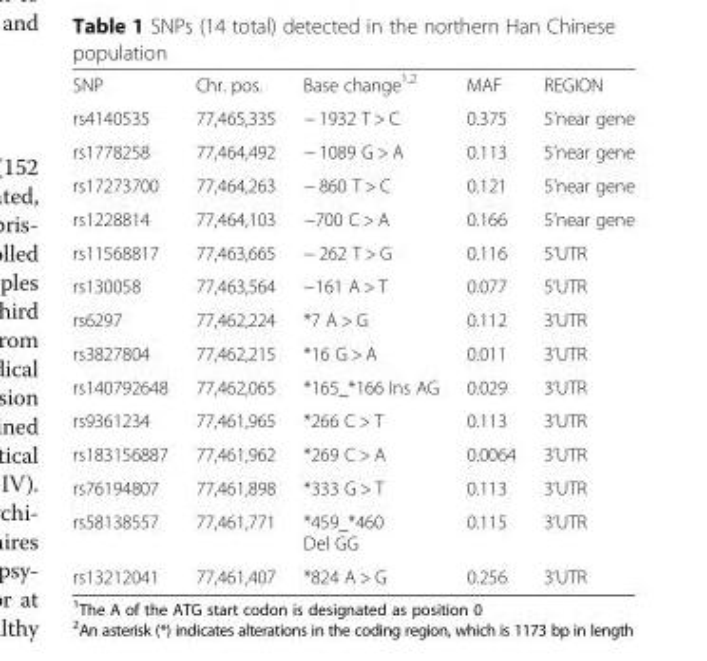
<table><tbody><tr><td>SNP</td><td>Chr. pos.</td><td>Base change<sup>1,2</sup></td><td>MAF</td><td>REGION</td></tr><tr><td>rs4140535</td><td>77,465,335</td><td>− 1932 T &gt; C</td><td>0.375</td><td>5’near gene</td></tr><tr><td>rs1778258</td><td>77,464,492</td><td>− 1089 G &gt; A</td><td>0.113</td><td>5’near gene</td></tr><tr><td>rs17273700</td><td>77,464,263</td><td>− 860 T &gt; C</td><td>0.121</td><td>5’near gene</td></tr><tr><td>rs1228814</td><td>77,464,103</td><td>−700 C &gt; A</td><td>0.166</td><td>5’near gene</td></tr><tr><td>rs11568817</td><td>77,463,665</td><td>− 262 T &gt; G</td><td>0.116</td><td>5’UTR</td></tr><tr><td>rs130058</td><td>77,463,564</td><td>−161 A &gt; T</td><td>0.077</td><td>5’UTR</td></tr><tr><td>rs6297</td><td>77,462,224</td><td>*7 A &gt; G</td><td>0.112</td><td>3’UTR</td></tr><tr><td>rs3827804</td><td>77,462,215</td><td>*16 G &gt; A</td><td>0.011</td><td>3’UTR</td></tr><tr><td>rs140792648</td><td>77,462,065</td><td>*165_*166 Ins AG</td><td>0.029</td><td>3’UTR</td></tr><tr><td>rs9361234</td><td>77,461,965</td><td>*266 C &gt; T</td><td>0.113</td><td>3’UTR</td></tr><tr><td>rs183156887</td><td>77,461,962</td><td>*269 C &gt; A</td><td>0.0064</td><td>3’UTR</td></tr><tr><td>rs76194807</td><td>77,461,898</td><td>*333 G &gt; T</td><td>0.113</td><td>3’UTR</td></tr><tr><td>rs58138557</td><td>77,461,771</td><td>*459_*460 Del GG</td><td>0.115</td><td>3’UTR</td></tr><tr><td>rs13212041</td><td>77,461,407</td><td>*824 A &gt; G</td><td>0.256</td><td>3’UTR</td></tr></tbody></table>